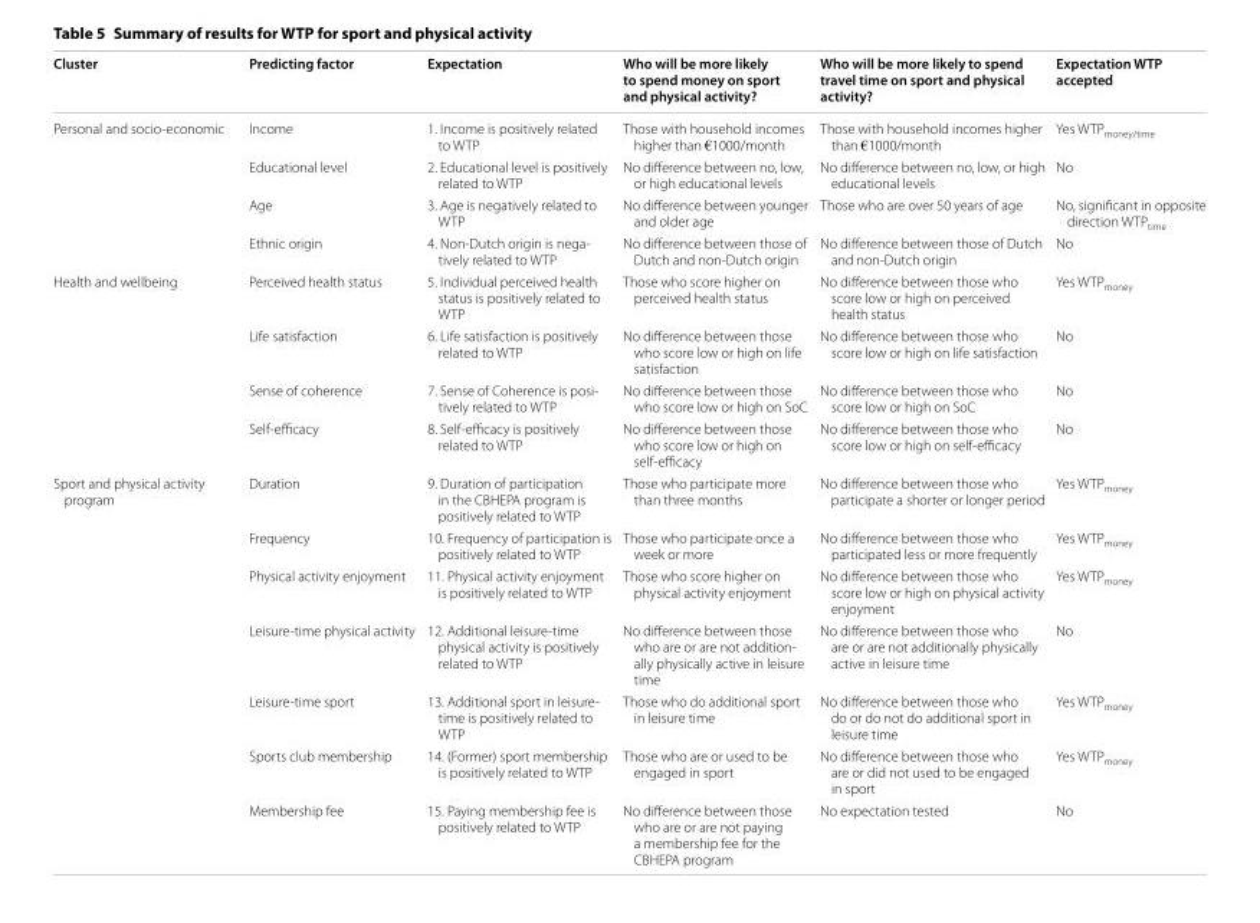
<table><thead><tr><td>Cluster</td><td>Predicting factor</td><td>Expectation</td><td>Who will be more likely to spend money on sport and physical activity?</td><td>Who will be more likely to spend travel time on sport and physical activity?</td><td>Expectation WTP accepted</td></tr></thead><tbody><tr><td rowspan="4">Personal and socio-economic</td><td>Income</td><td>1. Income is positively related to WTP</td><td>Those with household incomes higher than €1000/month</td><td>Those with household incomes higher than €1000/month</td><td>Yes WTP<sub>money/time</sub></td></tr><tr><td>Educational level</td><td>2. Educational level is positively related to WTP</td><td>No difference between no, low, or high educational levels</td><td>No difference between no, low, or high educational levels</td><td>No</td></tr><tr><td>Age</td><td>3. Age is negatively related to WTP</td><td>No difference between younger and older age</td><td>Those who are over 50 years of age</td><td>No, significant in opposite direction WTP<sub>time</sub></td></tr><tr><td>Ethnic origin</td><td>4. Non-Dutch origin is nega- tively related to WTP</td><td>No difference between those of Dutch and non-Dutch origin</td><td>No difference between those of Dutch and non-Dutch origin</td><td>No</td></tr><tr><td rowspan="4">Health and wellbeing</td><td>Perceived health status</td><td>5. Individual perceived health status is positively related to WTP</td><td>Those who score higher on perceived health status</td><td>No difference between those who score low or high on perceived health status</td><td>Yes WTP<sub>money</sub></td></tr><tr><td>Life satisfaction</td><td>6. Life satisfaction is positively related to WTP</td><td>No difference between those who score low or high on life satisfaction</td><td>No difference between those who score low or high on life satisfaction</td><td>No</td></tr><tr><td>Sense of coherence</td><td>7. Sense of Coherence is posi- tively related to WTP</td><td>No difference between those who score low or high on SoC</td><td>No difference between those who score low or high on SoC</td><td>No</td></tr><tr><td>Self-efficacy</td><td>8. Self-efficacy is positively related to WTP</td><td>No difference between those who score low or high on self-efficacy</td><td>No difference between those who score low or high on self-efficacy</td><td>No</td></tr><tr><td rowspan="7">Sport and physical activity program</td><td>Duration</td><td>9. Duration of participation in the CBHEPA program is positively related to WTP</td><td>Those who participate more than three months</td><td>No difference between those who participate a shorter or longer period</td><td>Yes WTP<sub>money</sub></td></tr><tr><td>Frequency</td><td>10. Frequency of participation is positively related to WTP</td><td>Those who participate once a week or more</td><td>No difference between those who participated less or more frequently</td><td>Yes WTP<sub>money</sub></td></tr><tr><td>Physical activity enjoyment</td><td>11. Physical activity enjoyment is positively related to WTP</td><td>Those who score higher on physical activity enjoyment</td><td>No difference between those who score low or high on physical activity enjoyment</td><td>Yes WTP<sub>money</sub></td></tr><tr><td>Leisure-time physical activity</td><td>12. Additional leisure-time physical activity is positively related to WTP</td><td>No difference between those who are or are not addition- ally physically active in leisure time</td><td>No difference between those who are or are not additionally physically active in leisure time</td><td>No</td></tr><tr><td>Leisure-time sport</td><td>13. Additional sport in leisure- time is positively related to WTP</td><td>Those who do additional sport in leisure time</td><td>No difference between those who do or do not do additional sport in leisure time</td><td>Yes WTP<sub>money</sub></td></tr><tr><td>Sports club membership</td><td>14. (Former) sport membership is positively related to WTP</td><td>Those who are or used to be engaged in sport</td><td>No difference between those who are or did not used to be engaged in sport</td><td>Yes WTP<sub>money</sub></td></tr><tr><td>Membership fee</td><td>15. Paying membership fee is positively related to WTP</td><td>No difference between those who are or are not paying a membership fee for the CBHEPA program</td><td>No expectation tested</td><td>No</td></tr></tbody></table>